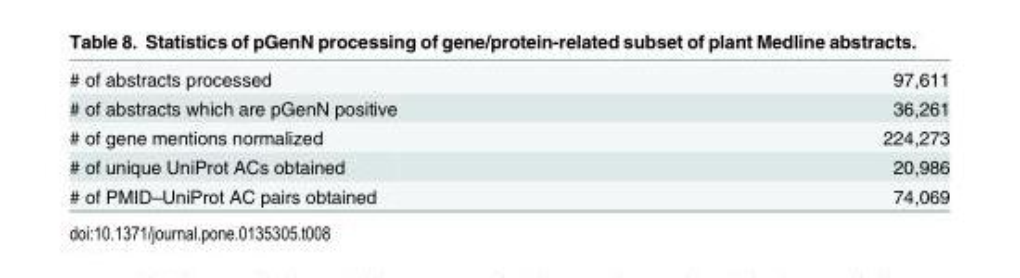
<table><tbody><tr><td># of abstracts processed</td><td>97,611</td></tr><tr><td># of abstracts which are pGenN positive</td><td>36,261</td></tr><tr><td># of gene mentions normalized</td><td>224,273</td></tr><tr><td># of unique UniProt ACs obtained</td><td>20,986</td></tr><tr><td># of PMID–UniProt AC pairs obtained</td><td>74,069</td></tr></tbody></table>